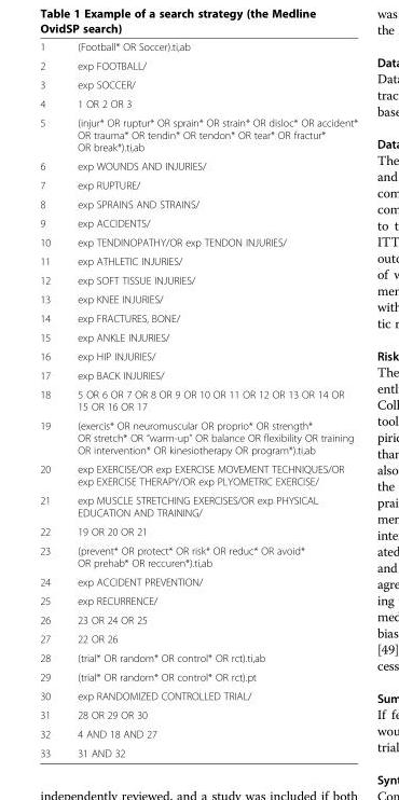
<table><tbody><tr><td>1</td><td>(Football* OR Soccer).ti,ab</td></tr><tr><td>2</td><td>exp FOOTBALL/</td></tr><tr><td>3</td><td>exp SOCCER/</td></tr><tr><td>4</td><td>1 OR 2 OR 3</td></tr><tr><td>5</td><td>(injur* OR ruptur* OR sprain* OR strain* OR disloc* OR accident* OR trauma* OR tendin* OR tendon* OR tear* OR fractur* OR break*).ti,ab</td></tr><tr><td>6</td><td>exp WOUNDS AND INJURIES/</td></tr><tr><td>7</td><td>exp RUPTURE/</td></tr><tr><td>8</td><td>exp SPRAINS AND STRAINS/</td></tr><tr><td>9</td><td>exp ACCIDENTS/</td></tr><tr><td>10</td><td>exp TENDINOPATHY/OR exp TENDON INJURIES/</td></tr><tr><td>11</td><td>exp ATHLETIC INJURIES/</td></tr><tr><td>12</td><td>exp SOFT TISSUE INJURIES/</td></tr><tr><td>13</td><td>exp KNEE INJURIES/</td></tr><tr><td>14</td><td>exp FRACTURES, BONE/</td></tr><tr><td>15</td><td>exp ANKLE INJURIES/</td></tr><tr><td>16</td><td>exp HIP INJURIES/</td></tr><tr><td>17</td><td>exp BACK INJURIES/</td></tr><tr><td>18</td><td>5 OR 6 OR 7 OR 8 OR 9 OR 10 OR 11 OR 12 OR 13 OR 14 OR 15 OR 16 OR 17</td></tr><tr><td>19</td><td>(exercis* OR neuromuscular OR proprio* OR strength* OR stretch* OR “warm-up” OR balance OR flexibility OR training OR intervention* OR kinesiotherapy OR program*).ti,ab</td></tr><tr><td>20</td><td>exp EXERCISE/OR exp EXERCISE MOVEMENT TECHNIQUES/OR exp EXERCISE THERAPY/OR exp PLYOMETRIC EXERCISE/</td></tr><tr><td>21</td><td>exp MUSCLE STRETCHING EXERCISES/OR exp PHYSICAL EDUCATION AND TRAINING/</td></tr><tr><td>22</td><td>19 OR 20 OR 21</td></tr><tr><td>23</td><td>(prevent* OR protect* OR risk* OR reduc* OR avoid* OR prehab* OR reccuren*).ti,ab</td></tr><tr><td>24</td><td>exp ACCIDENT PREVENTION/</td></tr><tr><td>25</td><td>exp RECURRENCE/</td></tr><tr><td>26</td><td>23 OR 24 OR 25</td></tr><tr><td>27</td><td>22 OR 26</td></tr><tr><td>28</td><td>(trial* OR random* OR control* OR rct).ti,ab</td></tr><tr><td>29</td><td>(trial* OR random* OR control* OR rct).pt</td></tr><tr><td>30</td><td>exp RANDOMIZED CONTROLLED TRIAL/</td></tr><tr><td>31</td><td>28 OR 29 OR 30</td></tr><tr><td>32</td><td>4 AND 18 AND 27</td></tr><tr><td>33</td><td>31 AND 32</td></tr></tbody></table>